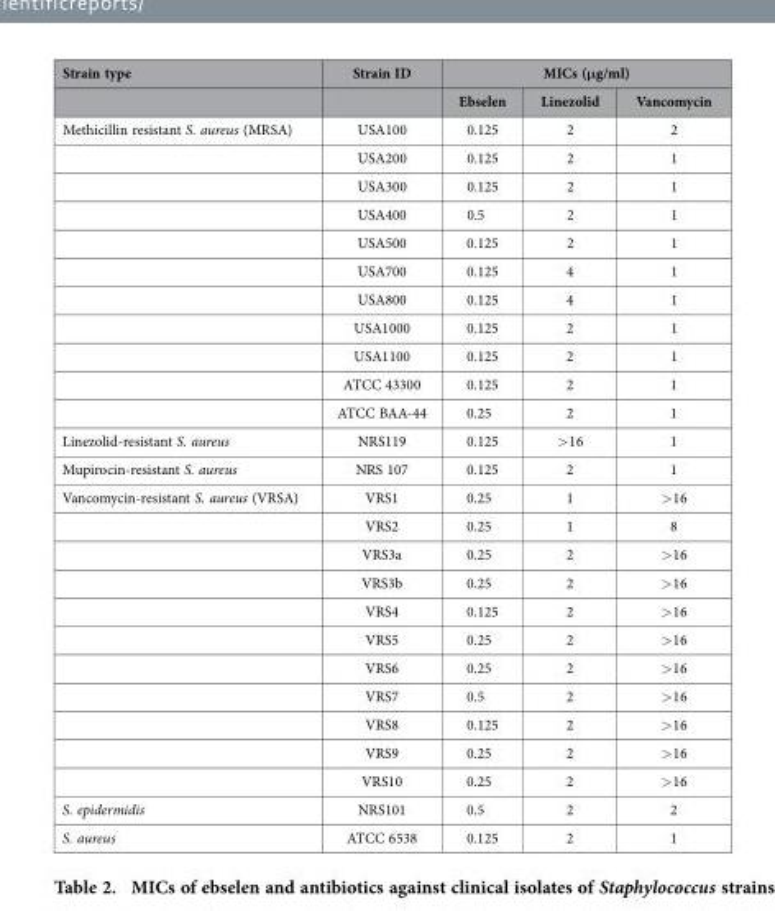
<table><thead><tr><td rowspan="2">Strain type</td><td rowspan="2">Strain ID</td><td colspan="3">MICs (μg/ml)</td></tr><tr><td>Ebselen</td><td>Linezolid</td><td>Vancomycin</td></tr></thead><tbody><tr><td rowspan="11">Methicillin resistant S. aureus (MRSA)</td><td>USA100</td><td>0.125</td><td>2</td><td>2</td></tr><tr><td>USA200</td><td>0.125</td><td>2</td><td>1</td></tr><tr><td>USA300</td><td>0.125</td><td>2</td><td>1</td></tr><tr><td>USA400</td><td>0.5</td><td>2</td><td>1</td></tr><tr><td>USA500</td><td>0.125</td><td>2</td><td>1</td></tr><tr><td>USA700</td><td>0.125</td><td>4</td><td>1</td></tr><tr><td>USA800</td><td>0.125</td><td>4</td><td>1</td></tr><tr><td>USA1000</td><td>0.125</td><td>2</td><td>1</td></tr><tr><td>USA1100</td><td>0.125</td><td>2</td><td>1</td></tr><tr><td>ATCC 43300</td><td>0.125</td><td>2</td><td>1</td></tr><tr><td>ATCC BAA-44</td><td>0.25</td><td>2</td><td>1</td></tr><tr><td>Linezolid-resistant S. aureus</td><td>NRS119</td><td>0.125</td><td>&gt; 16</td><td>1</td></tr><tr><td>Mupirocin-resistant S. aureus</td><td>NRS 107</td><td>0.125</td><td>2</td><td>1</td></tr><tr><td rowspan="11">Vancomycin-resistant S. aureus (VRSA)</td><td>VRS1</td><td>0.25</td><td>1</td><td>&gt; 16</td></tr><tr><td>VRS2</td><td>0.25</td><td>1</td><td>8</td></tr><tr><td>VRS3a</td><td>0.25</td><td>2</td><td>&gt; 16</td></tr><tr><td>VRS3b</td><td>0.25</td><td>2</td><td>&gt; 16</td></tr><tr><td>VRS4</td><td>0.125</td><td>2</td><td>&gt; 16</td></tr><tr><td>VRS5</td><td>0.25</td><td>2</td><td>&gt; 16</td></tr><tr><td>VRS6</td><td>0.25</td><td>2</td><td>&gt; 16</td></tr><tr><td>VRS7</td><td>0.5</td><td>2</td><td>&gt; 16</td></tr><tr><td>VRS8</td><td>0.125</td><td>2</td><td>&gt; 16</td></tr><tr><td>VRS9</td><td>0.25</td><td>2</td><td>&gt; 16</td></tr><tr><td>VRS10</td><td>0.25</td><td>2</td><td>&gt; 16</td></tr><tr><td>S. epidermidis</td><td>NRS101</td><td>0.5</td><td>2</td><td>2</td></tr><tr><td>S. aureus</td><td>ATCC 6538</td><td>0.125</td><td>2</td><td>1</td></tr></tbody></table>